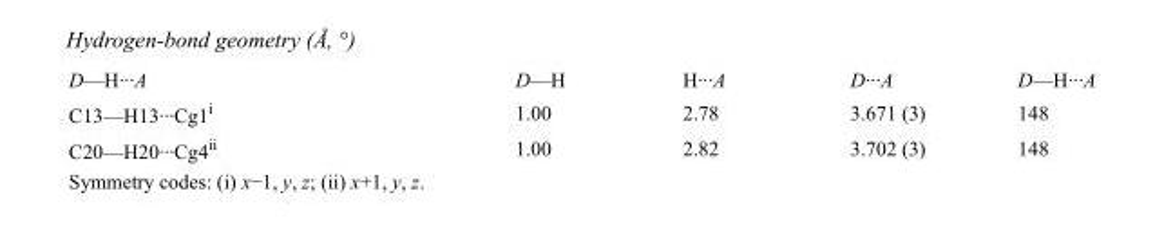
<table><tbody><tr><td>D—H···A</td><td>D—H</td><td>H···A</td><td>D···A</td><td>D—H···A</td></tr><tr><td>C13—H13···Cg1<sup>i</sup></td><td>1.00</td><td>2.78</td><td>3.671 (3)</td><td>148</td></tr><tr><td>C20—H20···Cg4<sup>ii</sup></td><td>1.00</td><td>2.82</td><td>3.702 (3)</td><td>148</td></tr></tbody></table>